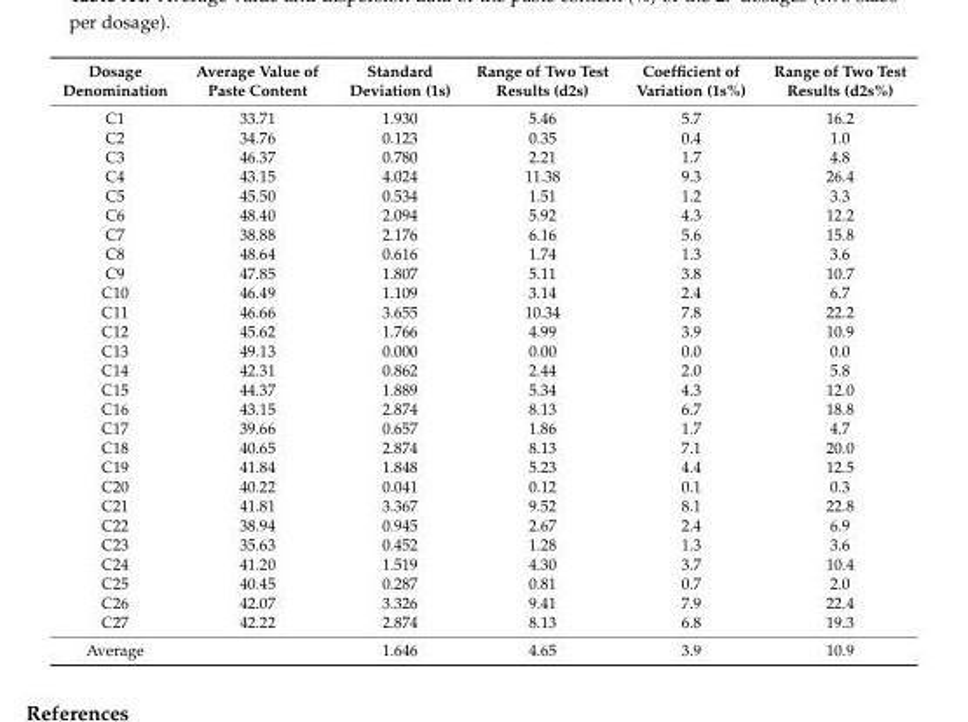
<table><thead><tr><td>Dosage Denomination</td><td>Average Value of Paste Content</td><td>Standard Deviation (1s)</td><td>Range of Two Test Results (d2s)</td><td>Coefficient of Variation (1s%)</td><td>Range of Two Test Results (d2s%)</td></tr></thead><tbody><tr><td>C1</td><td>33.71</td><td>1.930</td><td>5.46</td><td>5.7</td><td>16.2</td></tr><tr><td>C2</td><td>34.76</td><td>0.123</td><td>0.35</td><td>0.4</td><td>1.0</td></tr><tr><td>C3</td><td>46.37</td><td>0.780</td><td>2.21</td><td>1.7</td><td>4.8</td></tr><tr><td>C4</td><td>43.15</td><td>4.024</td><td>11.38</td><td>9.3</td><td>26.4</td></tr><tr><td>C5</td><td>45.50</td><td>0.534</td><td>1.51</td><td>1.2</td><td>3.3</td></tr><tr><td>C6</td><td>48.40</td><td>2.094</td><td>5.92</td><td>4.3</td><td>12.2</td></tr><tr><td>C7</td><td>38.88</td><td>2.176</td><td>6.16</td><td>5.6</td><td>15.8</td></tr><tr><td>C8</td><td>48.64</td><td>0.616</td><td>1.74</td><td>1.3</td><td>3.6</td></tr><tr><td>C9</td><td>47.85</td><td>1.807</td><td>5.11</td><td>3.8</td><td>10.7</td></tr><tr><td>C10</td><td>46.49</td><td>1.109</td><td>3.14</td><td>2.4</td><td>6.7</td></tr><tr><td>C11</td><td>46.66</td><td>3.655</td><td>10.34</td><td>7.8</td><td>22.2</td></tr><tr><td>C12</td><td>45.62</td><td>1.766</td><td>4.99</td><td>3.9</td><td>10.9</td></tr><tr><td>C13</td><td>49.13</td><td>0.000</td><td>0.00</td><td>0.0</td><td>0.0</td></tr><tr><td>C14</td><td>42.31</td><td>0.862</td><td>2.44</td><td>2.0</td><td>5.8</td></tr><tr><td>C15</td><td>44.37</td><td>1.889</td><td>5.34</td><td>4.3</td><td>12.0</td></tr><tr><td>C16</td><td>43.15</td><td>2.874</td><td>8.13</td><td>6.7</td><td>18.8</td></tr><tr><td>C17</td><td>39.66</td><td>0.657</td><td>1.86</td><td>1.7</td><td>4.7</td></tr><tr><td>C18</td><td>40.65</td><td>2.874</td><td>8.13</td><td>7.1</td><td>20.0</td></tr><tr><td>C19</td><td>41.84</td><td>1.848</td><td>5.23</td><td>4.4</td><td>12.5</td></tr><tr><td>C20</td><td>40.22</td><td>0.041</td><td>0.12</td><td>0.1</td><td>0.3</td></tr><tr><td>C21</td><td>41.81</td><td>3.367</td><td>9.52</td><td>8.1</td><td>22.8</td></tr><tr><td>C22</td><td>38.94</td><td>0.945</td><td>2.67</td><td>2.4</td><td>6.9</td></tr><tr><td>C23</td><td>35.63</td><td>0.452</td><td>1.28</td><td>1.3</td><td>3.6</td></tr><tr><td>C24</td><td>41.20</td><td>1.519</td><td>4.30</td><td>3.7</td><td>10.4</td></tr><tr><td>C25</td><td>40.45</td><td>0.287</td><td>0.81</td><td>0.7</td><td>2.0</td></tr><tr><td>C26</td><td>42.07</td><td>3.326</td><td>9.41</td><td>7.9</td><td>22.4</td></tr><tr><td>C27</td><td>42.22</td><td>2.874</td><td>8.13</td><td>6.8</td><td>19.3</td></tr><tr><td>Average</td><td></td><td>1.646</td><td>4.65</td><td>3.9</td><td>10.9</td></tr></tbody></table>